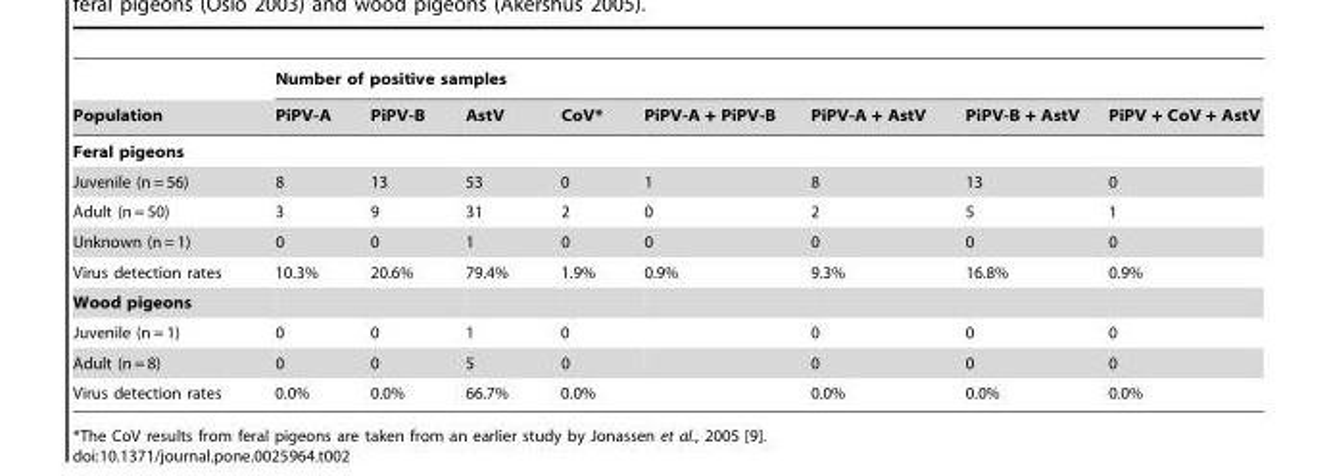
<table><thead><tr><td rowspan="2">Population</td><td colspan="8">Number of positive samples</td></tr><tr><td>PiPV-A</td><td>PiPV-B</td><td>AstV</td><td>CoV*</td><td>PiPV-A + PiPV-B</td><td>PiPV-A + AstV</td><td>PiPV-B + AstV</td><td>PiPV + CoV + AstV</td></tr></thead><tbody><tr><td colspan="9">Feral pigeons</td></tr><tr><td>Juvenile (n = 56)</td><td>8</td><td>13</td><td>53</td><td>0</td><td>1</td><td>8</td><td>13</td><td>0</td></tr><tr><td>Adult (n = 50)</td><td>3</td><td>9</td><td>31</td><td>2</td><td>0</td><td>2</td><td>5</td><td>1</td></tr><tr><td>Unknown (n = 1)</td><td>0</td><td>0</td><td>1</td><td>0</td><td>0</td><td>0</td><td>0</td><td>0</td></tr><tr><td>Virus detection rates</td><td>10.3%</td><td>20.6%</td><td>79.4%</td><td>1.9%</td><td>0.9%</td><td>9.3%</td><td>16.8%</td><td>0.9%</td></tr><tr><td colspan="9">Wood pigeons</td></tr><tr><td>Juvenile (n = 1)</td><td>0</td><td>0</td><td>1</td><td>0</td><td></td><td>0</td><td>0</td><td>0</td></tr><tr><td>Adult (n = 8)</td><td>0</td><td>0</td><td>5</td><td>0</td><td></td><td>0</td><td>0</td><td>0</td></tr><tr><td>Virus detection rates</td><td>0.0%</td><td>0.0%</td><td>66.7%</td><td>0.0%</td><td></td><td>0.0%</td><td>0.0%</td><td>0.0%</td></tr></tbody></table>